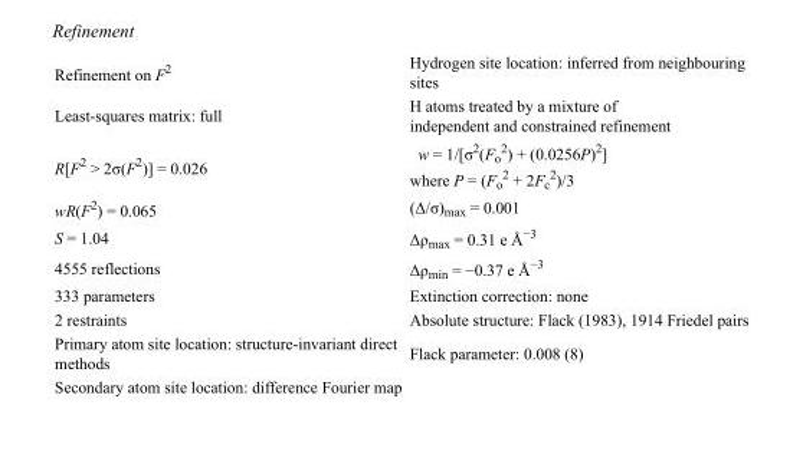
<table><tbody><tr><td>Refinement on F<sup>2</sup></td><td>Hydrogen site location: inferred from neighbouring sites</td></tr><tr><td>Least-squares matrix: full</td><td>H atoms treated by a mixture of independent and constrained refinement</td></tr><tr><td>R[F<sup>2</sup> &gt; 2σ(F<sup>2</sup>)] = 0.026</td><td>w = 1/[σ<sup>2</sup>(F<sub>o</sub> <sup>2</sup>) + (0.0256P)<sup>2</sup>] where P = (F<sub>o</sub> <sup>2</sup> + 2F<sub>c</sub> <sup>2</sup>)/3</td></tr><tr><td>wR(F<sup>2</sup>) = 0.065</td><td>(Δ/σ)<sub>max</sub> = 0.001</td></tr><tr><td>S = 1.04</td><td>Δρ<sub>max</sub> = 0.31 e Å<sup>−3</sup></td></tr><tr><td>4555 reflections</td><td>Δρ<sub>min</sub> = −0.37 e Å<sup>−3</sup></td></tr><tr><td>333 parameters</td><td>Extinction correction: none</td></tr><tr><td>2 restraints</td><td>Absolute structure: Flack (1983), 1914 Friedel pairs</td></tr><tr><td>Primary atom site location: structure-invariant direct methods</td><td>Flack parameter: 0.008 (8)</td></tr><tr><td>Secondary atom site location: difference Fourier map</td><td></td></tr></tbody></table>